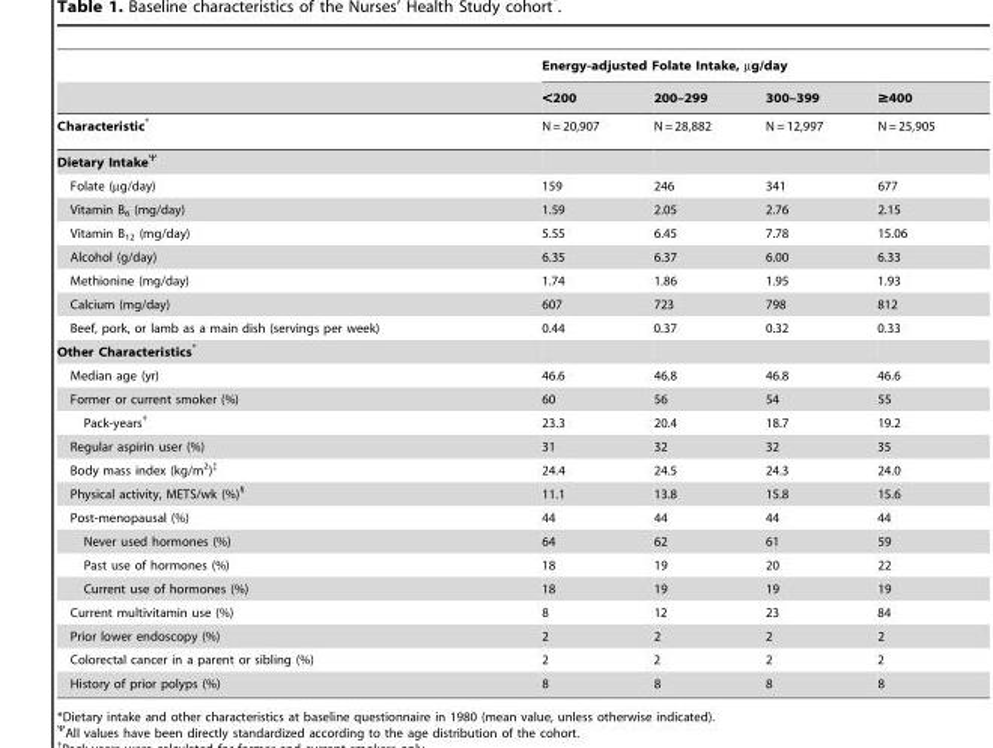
<table><thead><tr><td rowspan="2"></td><td colspan="4">Energy-adjusted Folate Intake, µg/day</td></tr><tr><td>&lt;200</td><td>200–299</td><td>300–399</td><td>≥400</td></tr></thead><tbody><tr><td>Characteristic*</td><td>N = 20,907</td><td>N = 28,882</td><td>N = 12,997</td><td>N = 25,905</td></tr><tr><td colspan="5">Dietary IntakeΨ</td></tr><tr><td>Folate (µg/day)</td><td>159</td><td>246</td><td>341</td><td>677</td></tr><tr><td>Vitamin B<sub>6</sub> (mg/day)</td><td>1.59</td><td>2.05</td><td>2.76</td><td>2.15</td></tr><tr><td>Vitamin B<sub>12</sub> (mg/day)</td><td>5.55</td><td>6.45</td><td>7.78</td><td>15.06</td></tr><tr><td>Alcohol (g/day)</td><td>6.35</td><td>6.37</td><td>6.00</td><td>6.33</td></tr><tr><td>Methionine (mg/day)</td><td>1.74</td><td>1.86</td><td>1.95</td><td>1.93</td></tr><tr><td>Calcium (mg/day)</td><td>607</td><td>723</td><td>798</td><td>812</td></tr><tr><td>Beef, pork, or lamb as a main dish (servings per week)</td><td>0.44</td><td>0.37</td><td>0.32</td><td>0.33</td></tr><tr><td colspan="5">Other Characteristics*</td></tr><tr><td>Median age (yr)</td><td>46.6</td><td>46.8</td><td>46.8</td><td>46.6</td></tr><tr><td>Former or current smoker (%)</td><td>60</td><td>56</td><td>54</td><td>55</td></tr><tr><td>Pack-years†</td><td>23.3</td><td>20.4</td><td>18.7</td><td>19.2</td></tr><tr><td>Regular aspirin user (%)</td><td>31</td><td>32</td><td>32</td><td>35</td></tr><tr><td>Body mass index (kg/m<sup>2</sup>)‡</td><td>24.4</td><td>24.5</td><td>24.3</td><td>24.0</td></tr><tr><td>Physical activity, METS/wk (%)§</td><td>11.1</td><td>13.8</td><td>15.8</td><td>15.6</td></tr><tr><td>Post-menopausal (%)</td><td>44</td><td>44</td><td>44</td><td>44</td></tr><tr><td>Never used hormones (%)</td><td>64</td><td>62</td><td>61</td><td>59</td></tr><tr><td>Past use of hormones (%)</td><td>18</td><td>19</td><td>20</td><td>22</td></tr><tr><td>Current use of hormones (%)</td><td>18</td><td>19</td><td>19</td><td>19</td></tr><tr><td>Current multivitamin use (%)</td><td>8</td><td>12</td><td>23</td><td>84</td></tr><tr><td>Prior lower endoscopy (%)</td><td>2</td><td>2</td><td>2</td><td>2</td></tr><tr><td>Colorectal cancer in a parent or sibling (%)</td><td>2</td><td>2</td><td>2</td><td>2</td></tr><tr><td>History of prior polyps (%)</td><td>8</td><td>8</td><td>8</td><td>8</td></tr></tbody></table>